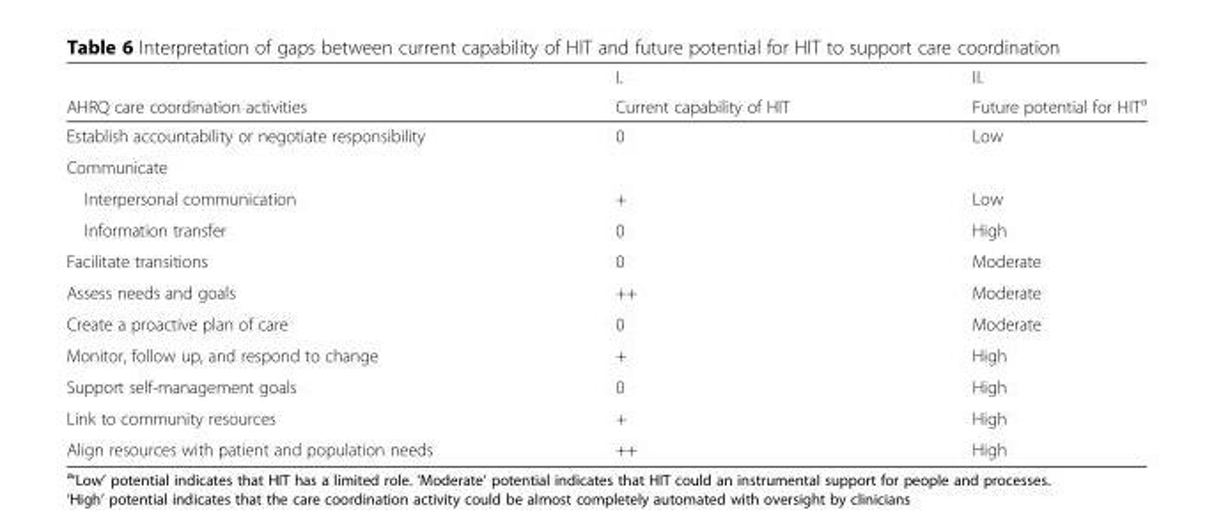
<table><thead><tr><td rowspan="2">AHRQ care coordination activities</td><td rowspan="2">I. Current capability of HIT</td><td rowspan="2">II. Future potential for HIT<sup>a</sup></td></tr><tr></tr></thead><tbody><tr><td>Establish accountability or negotiate responsibility</td><td>0</td><td>Low</td></tr><tr><td colspan="3">Communicate</td></tr><tr><td>Interpersonal communication</td><td>+</td><td>Low</td></tr><tr><td>Information transfer</td><td>0</td><td>High</td></tr><tr><td>Facilitate transitions</td><td>0</td><td>Moderate</td></tr><tr><td>Assess needs and goals</td><td>++</td><td>Moderate</td></tr><tr><td>Create a proactive plan of care</td><td>0</td><td>Moderate</td></tr><tr><td>Monitor, follow up, and respond to change</td><td>+</td><td>High</td></tr><tr><td>Support self-management goals</td><td>0</td><td>High</td></tr><tr><td>Link to community resources</td><td>+</td><td>High</td></tr><tr><td>Align resources with patient and population needs</td><td>++</td><td>High</td></tr></tbody></table>